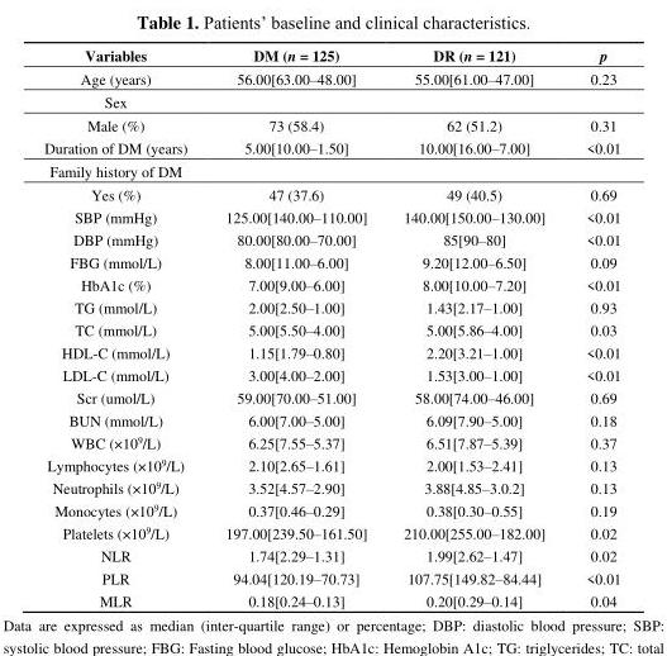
<table><thead><tr><td>Variables</td><td>DM (n = 125)</td><td>DR (n = 121)</td><td>p</td></tr></thead><tbody><tr><td>Age (years)</td><td>56.00[63.00–48.00]</td><td>55.00[61.00–47.00]</td><td>0.23</td></tr><tr><td colspan="4">Sex</td></tr><tr><td>Male (%)</td><td>73 (58.4)</td><td>62 (51.2)</td><td>0.31</td></tr><tr><td>Duration of DM (years)</td><td>5.00[10.00–1.50]</td><td>10.00[16.00–7.00]</td><td>&lt;0.01</td></tr><tr><td colspan="4">Family history of DM</td></tr><tr><td>Yes (%)</td><td>47 (37.6)</td><td>49 (40.5)</td><td>0.69</td></tr><tr><td>SBP (mmHg)</td><td>125.00[140.00–110.00]</td><td>140.00[150.00–130.00]</td><td>&lt;0.01</td></tr><tr><td>DBP (mmHg)</td><td>80.00[80.00–70.00]</td><td>85[90–80]</td><td>&lt;0.01</td></tr><tr><td>FBG (mmol/L)</td><td>8.00[11.00–6.00]</td><td>9.20[12.00–6.50]</td><td>0.09</td></tr><tr><td>HbA1c (%)</td><td>7.00[9.00–6.00]</td><td>8.00[10.00–7.20]</td><td>&lt;0.01</td></tr><tr><td>TG (mmol/L)</td><td>2.00[2.50–1.00]</td><td>1.43[2.17–1.00]</td><td>0.93</td></tr><tr><td>TC (mmol/L)</td><td>5.00[5.50–4.00]</td><td>5.00[5.86–4.00]</td><td>0.03</td></tr><tr><td>HDL-C (mmol/L)</td><td>1.15[1.79–0.80]</td><td>2.20[3.21–1.00]</td><td>&lt;0.01</td></tr><tr><td>LDL-C (mmol/L)</td><td>3.00[4.00–2.00]</td><td>1.53[3.00–1.00]</td><td>&lt;0.01</td></tr><tr><td>Scr (umol/L)</td><td>59.00[70.00–51.00]</td><td>58.00[74.00–46.00]</td><td>0.69</td></tr><tr><td>BUN (mmol/L)</td><td>6.00[7.00–5.00]</td><td>6.09[7.90–5.00]</td><td>0.18</td></tr><tr><td>WBC (×10<sup>9</sup>/L)</td><td>6.25[7.55–5.37]</td><td>6.51[7.87–5.39]</td><td>0.37</td></tr><tr><td>Lymphocytes (×10<sup>9</sup>/L)</td><td>2.10[2.65–1.61]</td><td>2.00[1.53–2.41]</td><td>0.13</td></tr><tr><td>Neutrophils (×10<sup>9</sup>/L)</td><td>3.52[4.57–2.90]</td><td>3.88[4.85–3.0.2]</td><td>0.13</td></tr><tr><td>Monocytes (×10<sup>9</sup>/L)</td><td>0.37[0.46–0.29]</td><td>0.38[0.30–0.55]</td><td>0.19</td></tr><tr><td>Platelets (×10<sup>9</sup>/L)</td><td>197.00[239.50–161.50]</td><td>210.00[255.00–182.00]</td><td>0.02</td></tr><tr><td>NLR</td><td>1.74[2.29–1.31]</td><td>1.99[2.62–1.47]</td><td>0.02</td></tr><tr><td>PLR</td><td>94.04[120.19–70.73]</td><td>107.75[149.82–84.44]</td><td>&lt;0.01</td></tr><tr><td>MLR</td><td>0.18[0.24–0.13]</td><td>0.20[0.29–0.14]</td><td>0.04</td></tr></tbody></table>